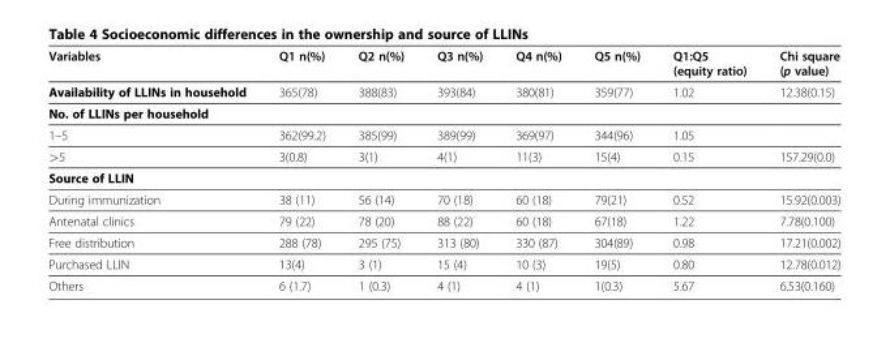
<table><thead><tr><td>Variables</td><td>Q1 n(%)</td><td>Q2 n(%)</td><td>Q3 n(%)</td><td>Q4 n(%)</td><td>Q5 n(%)</td><td>Q1:Q5 (equity ratio)</td><td>Chi square (p value)</td></tr></thead><tbody><tr><td>Availability of LLINs in household</td><td>365(78)</td><td>388(83)</td><td>393(84)</td><td>380(81)</td><td>359(77)</td><td>1.02</td><td>12.38(0.15)</td></tr><tr><td colspan="8">No. of LLINs per household</td></tr><tr><td>1–5</td><td>362(99.2)</td><td>385(99)</td><td>389(99)</td><td>369(97)</td><td>344(96)</td><td>1.05</td><td></td></tr><tr><td>&gt;5</td><td>3(0.8)</td><td>3(1)</td><td>4(1)</td><td>11(3)</td><td>15(4)</td><td>0.15</td><td>157.29(0.0)</td></tr><tr><td colspan="8">Source of LLIN</td></tr><tr><td>During immunization</td><td>38 (11)</td><td>56 (14)</td><td>70 (18)</td><td>60 (18)</td><td>79(21)</td><td>0.52</td><td>15.92(0.003)</td></tr><tr><td>Antenatal clinics</td><td>79 (22)</td><td>78 (20)</td><td>88 (22)</td><td>60 (18)</td><td>67(18)</td><td>1.22</td><td>7.78(0.100)</td></tr><tr><td>Free distribution</td><td>288 (78)</td><td>295 (75)</td><td>313 (80)</td><td>330 (87)</td><td>304(89)</td><td>0.98</td><td>17.21(0.002)</td></tr><tr><td>Purchased LLIN</td><td>13(4)</td><td>3 (1)</td><td>15 (4)</td><td>10 (3)</td><td>19(5)</td><td>0.80</td><td>12.78(0.012)</td></tr><tr><td>Others</td><td>6 (1.7)</td><td>1 (0.3)</td><td>4 (1)</td><td>4 (1)</td><td>1(0.3)</td><td>5.67</td><td>6.53(0.160)</td></tr></tbody></table>